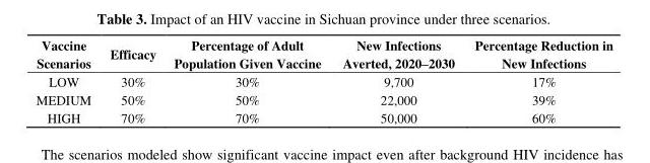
<table><thead><tr><td>Vaccine Scenarios</td><td>Efficacy</td><td>Percentage of Adult Population Given Vaccine</td><td>New Infections Averted, 2020–2030</td><td>Percentage Reduction in New Infections</td></tr></thead><tbody><tr><td>LOW</td><td>30%</td><td>30%</td><td>9,700</td><td>17%</td></tr><tr><td>MEDIUM</td><td>50%</td><td>50%</td><td>22,000</td><td>39%</td></tr><tr><td>HIGH</td><td>70%</td><td>70%</td><td>50,000</td><td>60%</td></tr></tbody></table>